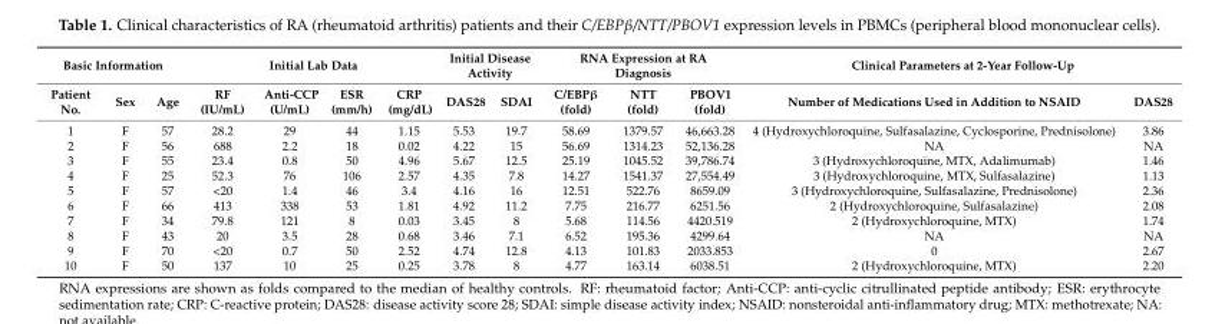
<table><thead><tr><td colspan="3">Basic Information</td><td colspan="4">Initial Lab Data</td><td colspan="2">Initial Disease Activity</td><td colspan="3">RNA Expression at RA Diagnosis</td><td colspan="2">Clinical Parameters at 2-Year Follow-Up</td></tr><tr><td>Patient No.</td><td>Sex</td><td>Age</td><td>RF (IU/mL)</td><td>Anti-CCP (U/mL)</td><td>ESR (mm/h)</td><td>CRP (mg/dL)</td><td>DAS28</td><td>SDAI</td><td>C/EBPβ (fold)</td><td>NTT (fold)</td><td>PBOV1 (fold)</td><td>Number of Medications Used in Addition to NSAID</td><td>DAS28</td></tr></thead><tbody><tr><td>1</td><td>F</td><td>57</td><td>28.2</td><td>29</td><td>44</td><td>1.15</td><td>5.53</td><td>19.7</td><td>58.69</td><td>1379.57</td><td>46,663.28</td><td>4 (Hydroxychloroquine, Sulfasalazine, Cyclosporine, Prednisolone)</td><td>3.86</td></tr><tr><td>2</td><td>F</td><td>56</td><td>688</td><td>2.2</td><td>18</td><td>0.02</td><td>4.22</td><td>15</td><td>56.69</td><td>1314.23</td><td>52,136.28</td><td>NA</td><td>NA</td></tr><tr><td>3</td><td>F</td><td>55</td><td>23.4</td><td>0.8</td><td>50</td><td>4.96</td><td>5.67</td><td>12.5</td><td>25.19</td><td>1045.52</td><td>39,786.74</td><td>3 (Hydroxychloroquine, MTX, Adalimumab)</td><td>1.46</td></tr><tr><td>4</td><td>F</td><td>25</td><td>52.3</td><td>76</td><td>106</td><td>2.57</td><td>4.35</td><td>7.8</td><td>14.27</td><td>1541.37</td><td>27,554.49</td><td>3 (Hydroxychloroquine, MTX, Sulfasalazine)</td><td>1.13</td></tr><tr><td>5</td><td>F</td><td>57</td><td>&lt;20</td><td>1.4</td><td>46</td><td>3.4</td><td>4.16</td><td>16</td><td>12.51</td><td>522.76</td><td>8659.09</td><td>3 (Hydroxychloroquine, Sulfasalazine, Prednisolone)</td><td>2.36</td></tr><tr><td>6</td><td>F</td><td>66</td><td>413</td><td>338</td><td>53</td><td>1.81</td><td>4.92</td><td>11.2</td><td>7.75</td><td>216.77</td><td>6251.56</td><td>2 (Hydroxychloroquine, Sulfasalazine)</td><td>2.08</td></tr><tr><td>7</td><td>F</td><td>34</td><td>79.8</td><td>121</td><td>8</td><td>0.03</td><td>3.45</td><td>8</td><td>5.68</td><td>114.56</td><td>4420.519</td><td>2 (Hydroxychloroquine, MTX)</td><td>1.74</td></tr><tr><td>8</td><td>F</td><td>43</td><td>20</td><td>3.5</td><td>28</td><td>0.68</td><td>3.46</td><td>7.1</td><td>6.52</td><td>195.36</td><td>4299.64</td><td>NA</td><td>NA</td></tr><tr><td>9</td><td>F</td><td>70</td><td>&lt;20</td><td>0.7</td><td>50</td><td>2.52</td><td>4.74</td><td>12.8</td><td>4.13</td><td>101.83</td><td>2033.853</td><td>0</td><td>2.67</td></tr><tr><td>10</td><td>F</td><td>50</td><td>137</td><td>10</td><td>25</td><td>0.25</td><td>3.78</td><td>8</td><td>4.77</td><td>163.14</td><td>6038.51</td><td>2 (Hydroxychloroquine, MTX)</td><td>2.20</td></tr></tbody></table>